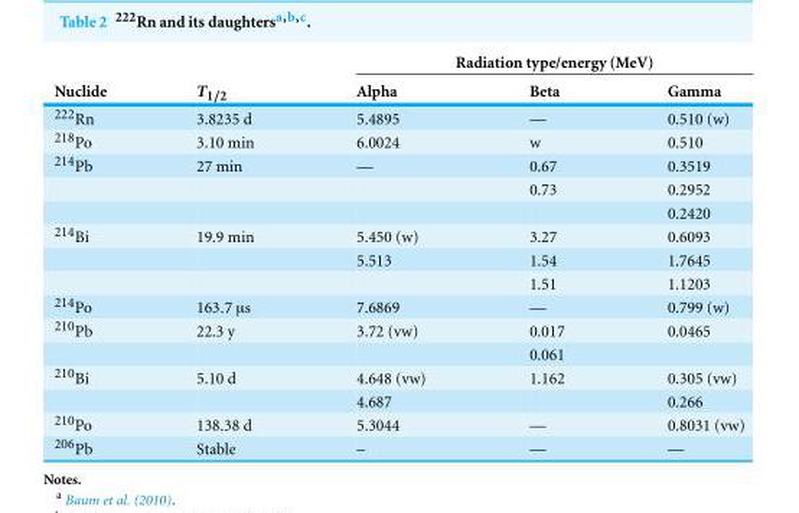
<table><thead><tr><td rowspan="2">Nuclide</td><td rowspan="2">T<sub>1/2</sub></td><td colspan="3">Radiation type/energy (MeV)</td></tr><tr><td>Alpha</td><td>Beta</td><td>Gamma</td></tr></thead><tbody><tr><td><sup>222</sup>Rn</td><td>3.8235 d</td><td>5.4895</td><td>—</td><td>0.510 (w)</td></tr><tr><td><sup>218</sup>Po</td><td>3.10 min</td><td>6.0024</td><td>w</td><td>0.510</td></tr><tr><td rowspan="3"><sup>214</sup>Pb</td><td>27 min</td><td>—</td><td>0.67</td><td>0.3519</td></tr><tr><td></td><td></td><td>0.73</td><td>0.2952</td></tr><tr><td></td><td></td><td></td><td>0.2420</td></tr><tr><td rowspan="3"><sup>214</sup>Bi</td><td>19.9 min</td><td>5.450 (w)</td><td>3.27</td><td>0.6093</td></tr><tr><td></td><td>5.513</td><td>1.54</td><td>1.7645</td></tr><tr><td></td><td></td><td>1.51</td><td>1.1203</td></tr><tr><td><sup>214</sup>Po</td><td>163.7 µs</td><td>7.6869</td><td>—</td><td>0.799 (w)</td></tr><tr><td rowspan="2"><sup>210</sup>Pb</td><td>22.3 y</td><td>3.72 (vw)</td><td>0.017</td><td>0.0465</td></tr><tr><td></td><td></td><td>0.061</td><td></td></tr><tr><td rowspan="2"><sup>210</sup>Bi</td><td>5.10 d</td><td>4.648 (vw)</td><td>1.162</td><td>0.305 (vw)</td></tr><tr><td></td><td>4.687</td><td></td><td>0.266</td></tr><tr><td><sup>210</sup>Po</td><td>138.38 d</td><td>5.3044</td><td>—</td><td>0.8031 (vw)</td></tr><tr><td><sup>206</sup>Pb</td><td>Stable</td><td>–</td><td>—</td><td>—</td></tr></tbody></table>